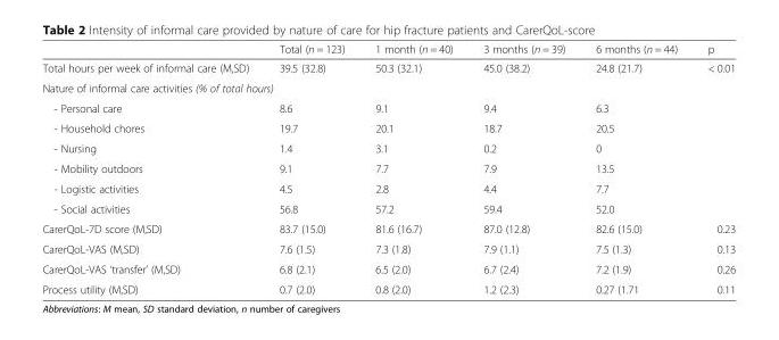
<table><thead><tr><td></td><td>Total (n = 123)</td><td>1 month (n = 40)</td><td>3 months (n = 39)</td><td>6 months (n = 44)</td><td>p</td></tr></thead><tbody><tr><td>Total hours per week of informal care (M,SD)</td><td>39.5 (32.8)</td><td>50.3 (32.1)</td><td>45.0 (38.2)</td><td>24.8 (21.7)</td><td>&lt; 0.01</td></tr><tr><td colspan="6">Nature of informal care activities (% of total hours)</td></tr><tr><td>- Personal care</td><td>8.6</td><td>9.1</td><td>9.4</td><td>6.3</td><td></td></tr><tr><td>- Household chores</td><td>19.7</td><td>20.1</td><td>18.7</td><td>20.5</td><td></td></tr><tr><td>- Nursing</td><td>1.4</td><td>3.1</td><td>0.2</td><td>0</td><td></td></tr><tr><td>- Mobility outdoors</td><td>9.1</td><td>7.7</td><td>7.9</td><td>13.5</td><td></td></tr><tr><td>- Logistic activities</td><td>4.5</td><td>2.8</td><td>4.4</td><td>7.7</td><td></td></tr><tr><td>- Social activities</td><td>56.8</td><td>57.2</td><td>59.4</td><td>52.0</td><td></td></tr><tr><td>CarerQoL-7D score (M,SD)</td><td>83.7 (15.0)</td><td>81.6 (16.7)</td><td>87.0 (12.8)</td><td>82.6 (15.0)</td><td>0.23</td></tr><tr><td>CarerQoL-VAS (M,SD)</td><td>7.6 (1.5)</td><td>7.3 (1.8)</td><td>7.9 (1.1)</td><td>7.5 (1.3)</td><td>0.13</td></tr><tr><td>CarerQoL-VAS ‘transfer’ (M,SD)</td><td>6.8 (2.1)</td><td>6.5 (2.0)</td><td>6.7 (2.4)</td><td>7.2 (1.9)</td><td>0.26</td></tr><tr><td>Process utility (M,SD)</td><td>0.7 (2.0)</td><td>0.8 (2.0)</td><td>1.2 (2.3)</td><td>0.27 (1.71</td><td>0.11</td></tr></tbody></table>